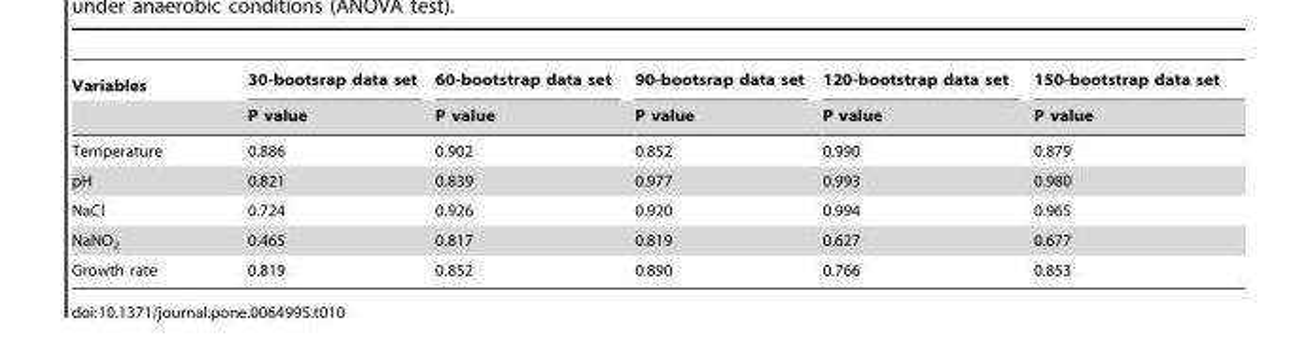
<table><thead><tr><td rowspan="2">Variables</td><td rowspan="2">30-bootsrap data set P value</td><td rowspan="2">60-bootstrap data set P value</td><td rowspan="2">90-bootsrap data set P value</td><td rowspan="2">120-bootstrap data set P value</td><td rowspan="2">150-bootstrap data set P value</td></tr><tr></tr></thead><tbody><tr><td>Temperature</td><td>0.886</td><td>0.902</td><td>0.852</td><td>0.990</td><td>0.879</td></tr><tr><td>pH</td><td>0.821</td><td>0.839</td><td>0.977</td><td>0.993</td><td>0.980</td></tr><tr><td>NaCl</td><td>0.724</td><td>0.926</td><td>0.920</td><td>0.994</td><td>0.965</td></tr><tr><td>NaNO<sub>2</sub></td><td>0.465</td><td>0.817</td><td>0.819</td><td>0.627</td><td>0.677</td></tr><tr><td>Growth rate</td><td>0.819</td><td>0.852</td><td>0.890</td><td>0.766</td><td>0.853</td></tr></tbody></table>